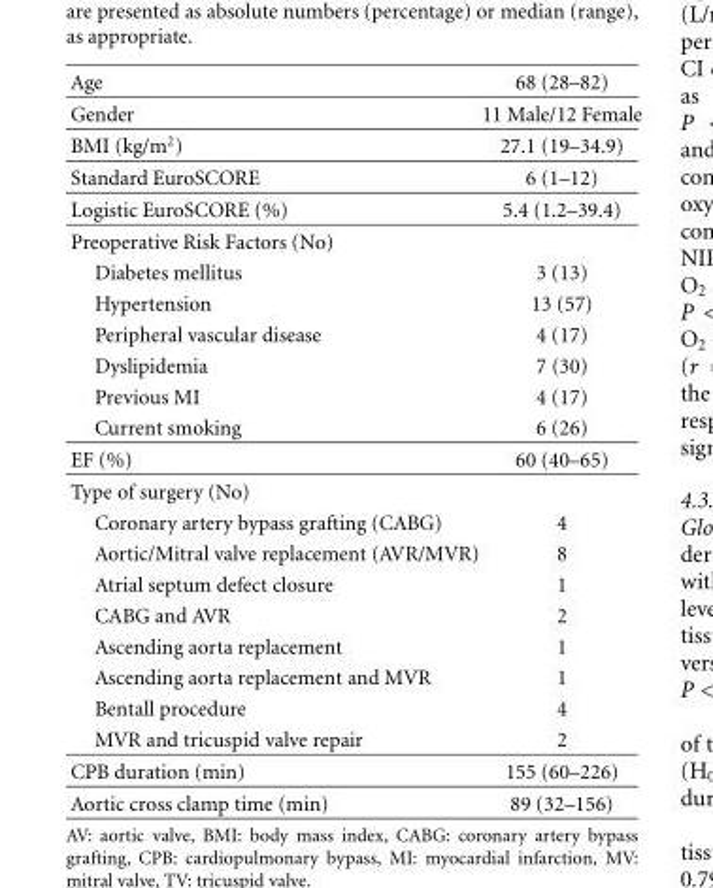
<table><thead><tr><td>Age</td><td>68 (28–82)</td></tr></thead><tbody><tr><td>Gender</td><td>11 Male/12 Female</td></tr><tr><td>BMI (kg/m<sup>2</sup>)</td><td>27.1 (19–34.9)</td></tr><tr><td>Standard EuroSCORE</td><td>6 (1–12)</td></tr><tr><td>Logistic EuroSCORE (%)</td><td>5.4 (1.2–39.4)</td></tr><tr><td colspan="2">Preoperative Risk Factors (No)</td></tr><tr><td>Diabetes mellitus</td><td>3 (13)</td></tr><tr><td>Hypertension</td><td>13 (57)</td></tr><tr><td>Peripheral vascular disease</td><td>4 (17)</td></tr><tr><td>Dyslipidemia</td><td>7 (30)</td></tr><tr><td>Previous MI</td><td>4 (17)</td></tr><tr><td>Current smoking</td><td>6 (26)</td></tr><tr><td>EF (%)</td><td>60 (40–65)</td></tr><tr><td colspan="2">Type of surgery (No)</td></tr><tr><td>Coronary artery bypass grafting (CABG)</td><td>4</td></tr><tr><td>Aortic/Mitral valve replacement (AVR/MVR)</td><td>8</td></tr><tr><td>Atrial septum defect closure</td><td>1</td></tr><tr><td>CABG and AVR</td><td>2</td></tr><tr><td>Ascending aorta replacement</td><td>1</td></tr><tr><td>Ascending aorta replacement and MVR</td><td>1</td></tr><tr><td>Bentall procedure</td><td>4</td></tr><tr><td>MVR and tricuspid valve repair</td><td>2</td></tr><tr><td>CPB duration (min)</td><td>155 (60–226)</td></tr><tr><td>Aortic cross clamp time (min)</td><td>89 (32–156)</td></tr></tbody></table>